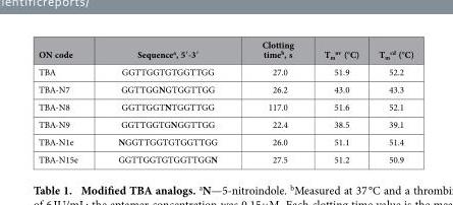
<table><thead><tr><td>ON code</td><td>Sequence<sup>a</sup>, 5′-3′</td><td>Clotting time<sup>b</sup>, s</td><td>T<sub>m</sub> <sup>uv</sup> (°C)</td><td>T<sub>m</sub> <sup>cd</sup> (°C)</td></tr></thead><tbody><tr><td>TBA</td><td>GGTTGGTGTGGTTGG</td><td>27.0</td><td>51.9</td><td>52.2</td></tr><tr><td>TBA-N7</td><td>GGTTGGNGTGGTTGG</td><td>26.2</td><td>43.0</td><td>43.3</td></tr><tr><td>TBA-N8</td><td>GGTTGGTNTGGTTGG</td><td>117.0</td><td>51.6</td><td>52.1</td></tr><tr><td>TBA-N9</td><td>GGTTGGTGNGGTTGG</td><td>22.4</td><td>38.5</td><td>39.1</td></tr><tr><td>TBA-N1e</td><td>NGGTTGGTGTGGTTGG</td><td>26.0</td><td>51.1</td><td>51.4</td></tr><tr><td>TBA-N15e</td><td>GGTTGGTGTGGTTGGN</td><td>27.5</td><td>51.2</td><td>50.9</td></tr></tbody></table>